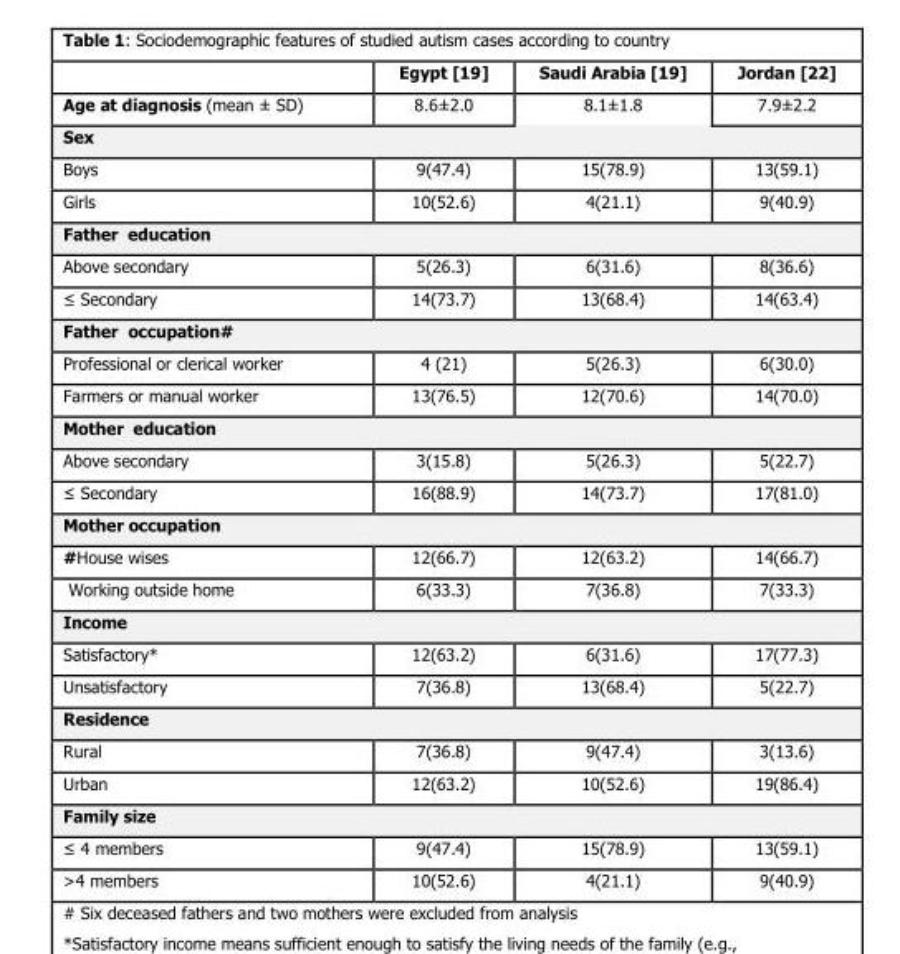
<table><thead><tr><td></td><td>Egypt [19]</td><td>Saudi Arabia [19]</td><td>Jordan [22]</td></tr></thead><tbody><tr><td>Age at diagnosis (mean ± SD)</td><td>8.6±2.0</td><td>8.1±1.8</td><td>7.9±2.2</td></tr><tr><td colspan="4">Sex</td></tr><tr><td>Boys</td><td>9(47.4)</td><td>15(78.9)</td><td>13(59.1)</td></tr><tr><td>Girls</td><td>10(52.6)</td><td>4(21.1)</td><td>9(40.9)</td></tr><tr><td colspan="4">Father education</td></tr><tr><td>Above secondary</td><td>5(26.3)</td><td>6(31.6)</td><td>8(36.6)</td></tr><tr><td>≤ Secondary</td><td>14(73.7)</td><td>13(68.4)</td><td>14(63.4)</td></tr><tr><td colspan="4">Father occupation#</td></tr><tr><td>Professional or clerical worker</td><td>4 (21)</td><td>5(26.3)</td><td>6(30.0)</td></tr><tr><td>Farmers or manual worker</td><td>13(76.5)</td><td>12(70.6)</td><td>14(70.0)</td></tr><tr><td colspan="4">Mother education</td></tr><tr><td>Above secondary</td><td>3(15.8)</td><td>5(26.3)</td><td>5(22.7)</td></tr><tr><td>≤ Secondary</td><td>16(88.9)</td><td>14(73.7)</td><td>17(81.0)</td></tr><tr><td colspan="4">Mother occupation</td></tr><tr><td>#House wises</td><td>12(66.7)</td><td>12(63.2)</td><td>14(66.7)</td></tr><tr><td>Working outside home</td><td>6(33.3)</td><td>7(36.8)</td><td>7(33.3)</td></tr><tr><td colspan="4">Income</td></tr><tr><td>Satisfactory*</td><td>12(63.2)</td><td>6(31.6)</td><td>17(77.3)</td></tr><tr><td>Unsatisfactory</td><td>7(36.8)</td><td>13(68.4)</td><td>5(22.7)</td></tr><tr><td colspan="4">Residence</td></tr><tr><td>Rural</td><td>7(36.8)</td><td>9(47.4)</td><td>3(13.6)</td></tr><tr><td>Urban</td><td>12(63.2)</td><td>10(52.6)</td><td>19(86.4)</td></tr><tr><td colspan="4">Family size</td></tr><tr><td>≤ 4 members</td><td>9(47.4)</td><td>15(78.9)</td><td>13(59.1)</td></tr><tr><td>&gt;4 members</td><td>10(52.6)</td><td>4(21.1)</td><td>9(40.9)</td></tr></tbody></table>